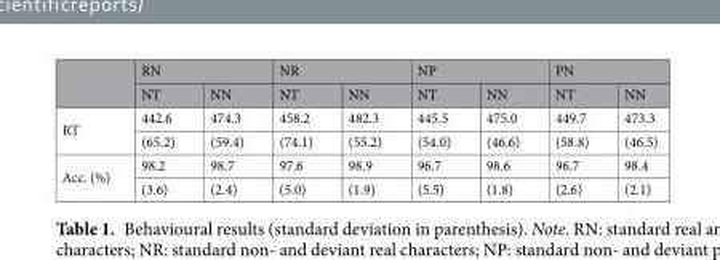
<table><thead><tr><td rowspan="2"></td><td colspan="2">RN</td><td colspan="2">NR</td><td colspan="2">NP</td><td colspan="2">PN</td></tr><tr><td>NT</td><td>NN</td><td>NT</td><td>NN</td><td>NT</td><td>NN</td><td>NT</td><td>NN</td></tr></thead><tbody><tr><td rowspan="2">RT</td><td>442.6</td><td>474.3</td><td>458.2</td><td>482.3</td><td>445.5</td><td>475.0</td><td>449.7</td><td>473.3</td></tr><tr><td>(65.2)</td><td>(59.4)</td><td>(74.1)</td><td>(55.2)</td><td>(54.0)</td><td>(46.6)</td><td>(58.8)</td><td>(46.5)</td></tr><tr><td rowspan="2">Acc. (%)</td><td>98.2</td><td>98.7</td><td>97.6</td><td>98.9</td><td>96.7</td><td>98.6</td><td>96.7</td><td>98.4</td></tr><tr><td>(3.6)</td><td>(2.4)</td><td>(5.0)</td><td>(1.9)</td><td>(5.5)</td><td>(1.8)</td><td>(2.6)</td><td>(2.1)</td></tr></tbody></table>